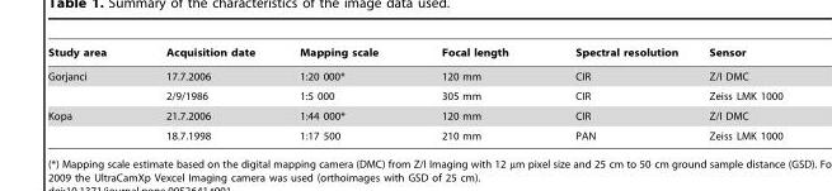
<table><thead><tr><td>Study area</td><td>Acquisition date</td><td>Mapping scale</td><td>Focal length</td><td>Spectral resolution</td><td>Sensor</td></tr></thead><tbody><tr><td rowspan="2">Gorjanci</td><td>17.7.2006</td><td>1:20 000*</td><td>120 mm</td><td>CIR</td><td>Z/I DMC</td></tr><tr><td>2/9/1986</td><td>1:5 000</td><td>305 mm</td><td>CIR</td><td>Zeiss LMK 1000</td></tr><tr><td rowspan="2">Kopa</td><td>21.7.2006</td><td>1:44 000*</td><td>120 mm</td><td>CIR</td><td>Z/I DMC</td></tr><tr><td>18.7.1998</td><td>1:17 500</td><td>210 mm</td><td>PAN</td><td>Zeiss LMK 1000</td></tr></tbody></table>